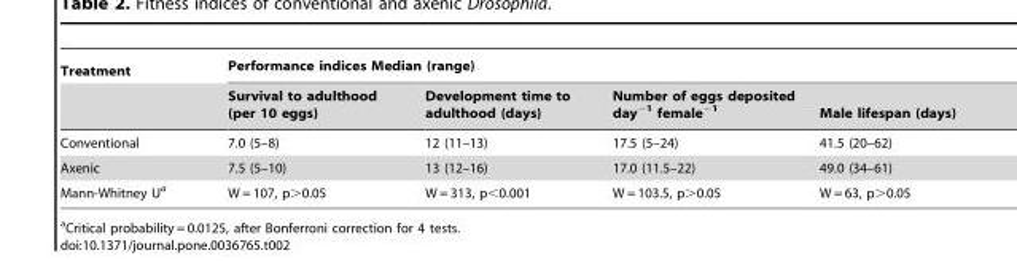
<table><thead><tr><td rowspan="2">Treatment</td><td colspan="4">Performance indices Median (range)</td></tr><tr><td>Survival to adulthood (per 10 eggs)</td><td>Development time to adulthood (days)</td><td>Number of eggs deposited day<sup>−1</sup> female<sup>−1</sup></td><td>Male lifespan (days)</td></tr></thead><tbody><tr><td>Conventional</td><td>7.0 (5–8)</td><td>12 (11–13)</td><td>17.5 (5–24)</td><td>41.5 (20–62)</td></tr><tr><td>Axenic</td><td>7.5 (5–10)</td><td>13 (12–16)</td><td>17.0 (11.5–22)</td><td>49.0 (34–61)</td></tr><tr><td>Mann-Whitney U<sup>a</sup></td><td>W = 107, p&gt;0.05</td><td>W = 313, p&lt;0.001</td><td>W = 103.5, p&gt;0.05</td><td>W = 63, p&gt;0.05</td></tr></tbody></table>